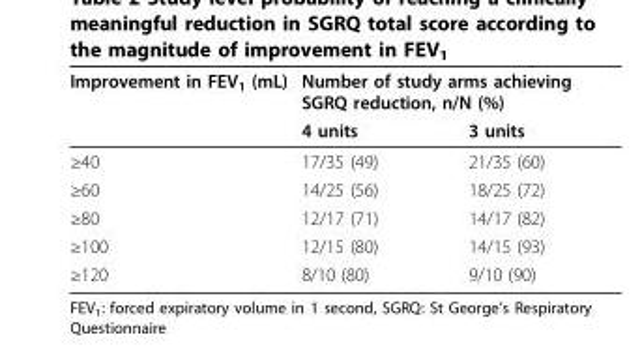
<table><thead><tr><td rowspan="2">Improvement in FEV<sub>1</sub> (mL)</td><td colspan="2">Number of study arms achieving SGRQ reduction, n/N (%)</td></tr><tr><td>4 units</td><td>3 units</td></tr></thead><tbody><tr><td>≥40</td><td>17/35 (49)</td><td>21/35 (60)</td></tr><tr><td>≥60</td><td>14/25 (56)</td><td>18/25 (72)</td></tr><tr><td>≥80</td><td>12/17 (71)</td><td>14/17 (82)</td></tr><tr><td>≥100</td><td>12/15 (80)</td><td>14/15 (93)</td></tr><tr><td>≥120</td><td>8/10 (80)</td><td>9/10 (90)</td></tr></tbody></table>